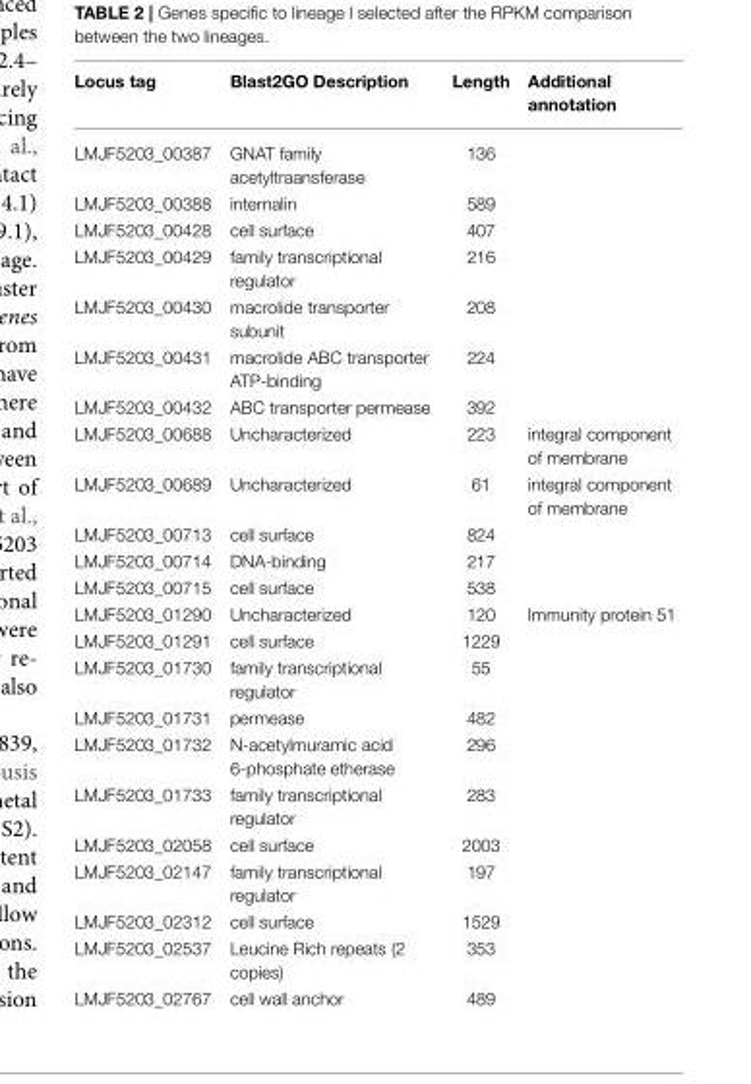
<table><thead><tr><td>Locus tag</td><td>Blast2GO Description</td><td>Length</td><td>Additional annotation</td></tr></thead><tbody><tr><td>LMJF5203_00387</td><td>GNAT family acetyltraansferase</td><td>136</td><td></td></tr><tr><td>LMJF5203_00388</td><td>internalin</td><td>589</td><td></td></tr><tr><td>LMJF5203_00428</td><td>cell surface</td><td>407</td><td></td></tr><tr><td>LMJF5203_00429</td><td>family transcriptional regulator</td><td>216</td><td></td></tr><tr><td>LMJF5203_00430</td><td>macrolide transporter subunit</td><td>208</td><td></td></tr><tr><td>LMJF5203_00431</td><td>macrolide ABC transporter ATP-binding</td><td>224</td><td></td></tr><tr><td>LMJF5203_00432</td><td>ABC transporter permease</td><td>392</td><td></td></tr><tr><td>LMJF5203_00688</td><td>Uncharacterized</td><td>223</td><td>integral component of membrane</td></tr><tr><td>LMJF5203_00689</td><td>Uncharacterized</td><td>61</td><td>integral component of membrane</td></tr><tr><td>LMJF5203_00713</td><td>cell surface</td><td>824</td><td></td></tr><tr><td>LMJF5203_00714</td><td>DNA-binding</td><td>217</td><td></td></tr><tr><td>LMJF5203_00715</td><td>cell surface</td><td>538</td><td></td></tr><tr><td>LMJF5203_01290</td><td>Uncharacterized</td><td>120</td><td>Immunity protein 51</td></tr><tr><td>LMJF5203_01291</td><td>cell surface</td><td>1229</td><td></td></tr><tr><td>LMJF5203_01730</td><td>family transcriptional regulator</td><td>55</td><td></td></tr><tr><td>LMJF5203_01731</td><td>permease</td><td>482</td><td></td></tr><tr><td>LMJF5203_01732</td><td>N-acetylmuramic acid 6-phosphate etherase</td><td>296</td><td></td></tr><tr><td>LMJF5203_01733</td><td>family transcriptional regulator</td><td>283</td><td></td></tr><tr><td>LMJF5203_02058</td><td>cell surface</td><td>2003</td><td></td></tr><tr><td>LMJF5203_02147</td><td>family transcriptional regulator</td><td>197</td><td></td></tr><tr><td>LMJF5203_02312</td><td>cell surface</td><td>1529</td><td></td></tr><tr><td>LMJF5203_02537</td><td>Leucine Rich repeats (2 copies)</td><td>353</td><td></td></tr><tr><td>LMJF5203_02767</td><td>cell wall anchor</td><td>489</td><td></td></tr></tbody></table>